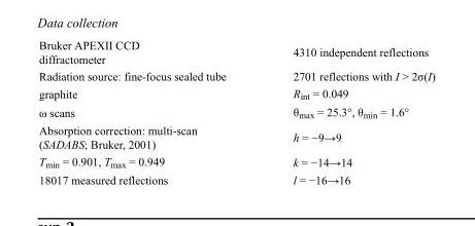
<table><tbody><tr><td>Bruker APEXII CCD diffractometer</td><td>4310 independent reflections</td></tr><tr><td>Radiation source: fine-focus sealed tube</td><td>2701 reflections with I &gt; 2σ(I)</td></tr><tr><td>graphite</td><td>R<sub>int</sub> = 0.049</td></tr><tr><td>ω scans</td><td>θ<sub>max</sub> = 25.3°, θ<sub>min</sub> = 1.6°</td></tr><tr><td>Absorption correction: multi-scan (SADABS; Bruker, 2001)</td><td>h = −9→9</td></tr><tr><td>T<sub>min</sub> = 0.901, T<sub>max</sub> = 0.949</td><td>k = −14→14</td></tr><tr><td>18017 measured reflections</td><td>l = −16→16</td></tr></tbody></table>